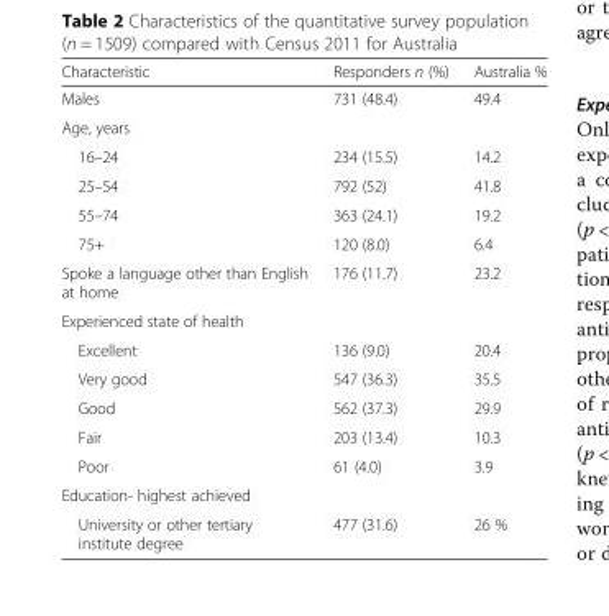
<table><thead><tr><td>Characteristic</td><td>Responders n (%)</td><td>Australia %</td></tr></thead><tbody><tr><td>Males</td><td>731 (48.4)</td><td>49.4</td></tr><tr><td colspan="3">Age, years</td></tr><tr><td>16–24</td><td>234 (15.5)</td><td>14.2</td></tr><tr><td>25–54</td><td>792 (52)</td><td>41.8</td></tr><tr><td>55–74</td><td>363 (24.1)</td><td>19.2</td></tr><tr><td>75+</td><td>120 (8.0)</td><td>6.4</td></tr><tr><td>Spoke a language other than English at home</td><td>176 (11.7)</td><td>23.2</td></tr><tr><td colspan="3">Experienced state of health</td></tr><tr><td>Excellent</td><td>136 (9.0)</td><td>20.4</td></tr><tr><td>Very good</td><td>547 (36.3)</td><td>35.5</td></tr><tr><td>Good</td><td>562 (37.3)</td><td>29.9</td></tr><tr><td>Fair</td><td>203 (13.4)</td><td>10.3</td></tr><tr><td>Poor</td><td>61 (4.0)</td><td>3.9</td></tr><tr><td colspan="3">Education- highest achieved</td></tr><tr><td>University or other tertiary institute degree</td><td>477 (31.6)</td><td>26 %</td></tr></tbody></table>